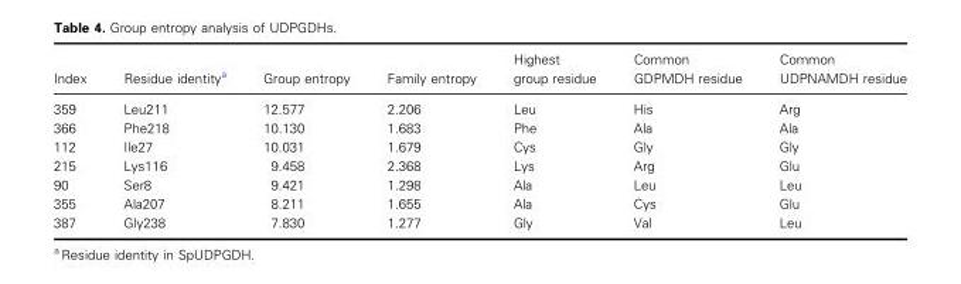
<table><thead><tr><td>Index</td><td>Residue identity<sup>a</sup></td><td>Group entropy</td><td>Family entropy</td><td>Highest group residue</td><td>Common GDPMDH residue</td><td>Common UDPNAMDH residue</td></tr></thead><tbody><tr><td>359</td><td>Leu211</td><td>12.577</td><td>2.206</td><td>Leu</td><td>His</td><td>Arg</td></tr><tr><td>366</td><td>Phe218</td><td>10.130</td><td>1.683</td><td>Phe</td><td>Ala</td><td>Ala</td></tr><tr><td>112</td><td>Ile27</td><td>10.031</td><td>1.679</td><td>Cys</td><td>Gly</td><td>Gly</td></tr><tr><td>215</td><td>Lys116</td><td>9.458</td><td>2.368</td><td>Lys</td><td>Arg</td><td>Glu</td></tr><tr><td>90</td><td>Ser8</td><td>9.421</td><td>1.298</td><td>Ala</td><td>Leu</td><td>Leu</td></tr><tr><td>355</td><td>Ala207</td><td>8.211</td><td>1.655</td><td>Ala</td><td>Cys</td><td>Glu</td></tr><tr><td>387</td><td>Gly238</td><td>7.830</td><td>1.277</td><td>Gly</td><td>Val</td><td>Leu</td></tr></tbody></table>